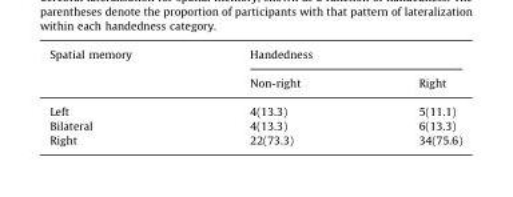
<table><thead><tr><td rowspan="2">Spatial memory</td><td colspan="2">Handedness</td></tr><tr><td>Non-right</td><td>Right</td></tr></thead><tbody><tr><td>Left</td><td>4(13.3)</td><td>5(11.1)</td></tr><tr><td>Bilateral</td><td>4(13.3)</td><td>6(13.3)</td></tr><tr><td>Right</td><td>22(73.3)</td><td>34(75.6)</td></tr></tbody></table>